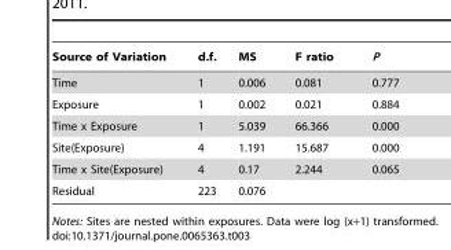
<table><thead><tr><td>Source of Variation</td><td>d.f.</td><td>MS</td><td>F ratio</td><td>P</td></tr></thead><tbody><tr><td>Time</td><td>1</td><td>0.006</td><td>0.081</td><td>0.777</td></tr><tr><td>Exposure</td><td>1</td><td>0.002</td><td>0.021</td><td>0.884</td></tr><tr><td>Time x Exposure</td><td>1</td><td>5.039</td><td>66.366</td><td>0.000</td></tr><tr><td>Site(Exposure)</td><td>4</td><td>1.191</td><td>15.687</td><td>0.000</td></tr><tr><td>Time x Site(Exposure)</td><td>4</td><td>0.17</td><td>2.244</td><td>0.065</td></tr><tr><td>Residual</td><td>223</td><td>0.076</td><td></td><td></td></tr></tbody></table>